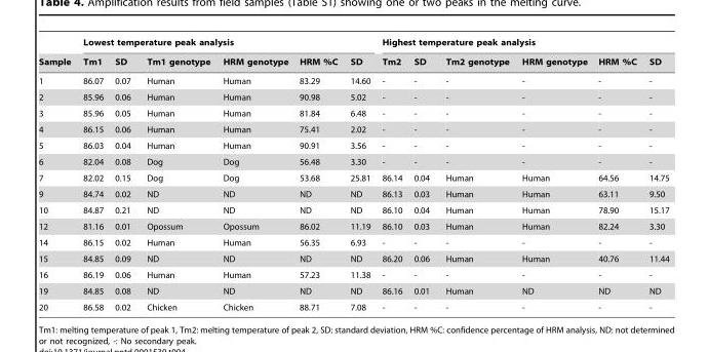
<table><thead><tr><td rowspan="2">Sample</td><td colspan="6">Lowest temperature peak analysis</td><td colspan="6">Highest temperature peak analysis</td></tr><tr><td>Tm1</td><td>SD</td><td>Tm1 genotype</td><td>HRM genotype</td><td>HRM %C</td><td>SD</td><td>Tm2</td><td>SD</td><td>Tm2 genotype</td><td>HRM genotype</td><td>HRM %C</td><td>SD</td></tr></thead><tbody><tr><td>1</td><td>86.07</td><td>0.07</td><td>Human</td><td>Human</td><td>83.29</td><td>14.60</td><td>-</td><td>-</td><td>-</td><td>-</td><td>-</td><td>-</td></tr><tr><td>2</td><td>85.96</td><td>0.06</td><td>Human</td><td>Human</td><td>90.98</td><td>5.02</td><td>-</td><td>-</td><td>-</td><td>-</td><td>-</td><td>-</td></tr><tr><td>3</td><td>85.96</td><td>0.05</td><td>Human</td><td>Human</td><td>81.84</td><td>6.48</td><td>-</td><td>-</td><td>-</td><td>-</td><td>-</td><td>-</td></tr><tr><td>4</td><td>86.15</td><td>0.06</td><td>Human</td><td>Human</td><td>75.41</td><td>2.02</td><td>-</td><td>-</td><td>-</td><td>-</td><td>-</td><td>-</td></tr><tr><td>5</td><td>86.03</td><td>0.04</td><td>Human</td><td>Human</td><td>90.91</td><td>3.56</td><td>-</td><td>-</td><td>-</td><td>-</td><td>-</td><td>-</td></tr><tr><td>6</td><td>82.04</td><td>0.08</td><td>Dog</td><td>Dog</td><td>56.48</td><td>3.30</td><td>-</td><td>-</td><td>-</td><td>-</td><td>-</td><td>-</td></tr><tr><td>7</td><td>82.02</td><td>0.15</td><td>Dog</td><td>Dog</td><td>53.68</td><td>25.81</td><td>86.14</td><td>0.04</td><td>Human</td><td>Human</td><td>64.56</td><td>14.75</td></tr><tr><td>9</td><td>84.74</td><td>0.02</td><td>ND</td><td>ND</td><td>ND</td><td>ND</td><td>86.13</td><td>0.03</td><td>Human</td><td>Human</td><td>63.11</td><td>9.50</td></tr><tr><td>10</td><td>84.87</td><td>0.21</td><td>ND</td><td>ND</td><td>ND</td><td>ND</td><td>86.10</td><td>0.04</td><td>Human</td><td>Human</td><td>78.90</td><td>15.17</td></tr><tr><td>12</td><td>81.16</td><td>0.01</td><td>Opossum</td><td>Opossum</td><td>86.02</td><td>11.19</td><td>86.10</td><td>0.03</td><td>Human</td><td>Human</td><td>82.24</td><td>3.30</td></tr><tr><td>14</td><td>86.15</td><td>0.02</td><td>Human</td><td>Human</td><td>56.35</td><td>6.93</td><td>-</td><td>-</td><td>-</td><td>-</td><td>-</td><td>-</td></tr><tr><td>15</td><td>84.85</td><td>0.09</td><td>ND</td><td>ND</td><td>ND</td><td>ND</td><td>86.20</td><td>0.06</td><td>Human</td><td>Human</td><td>40.76</td><td>11.44</td></tr><tr><td>16</td><td>86.19</td><td>0.06</td><td>Human</td><td>Human</td><td>57.23</td><td>11.38</td><td>-</td><td>-</td><td>-</td><td>-</td><td>-</td><td>-</td></tr><tr><td>19</td><td>84.85</td><td>0.08</td><td>ND</td><td>ND</td><td>ND</td><td>ND</td><td>86.16</td><td>0.01</td><td>Human</td><td>ND</td><td>ND</td><td>ND</td></tr><tr><td>20</td><td>86.58</td><td>0.02</td><td>Chicken</td><td>Chicken</td><td>88.71</td><td>7.08</td><td>-</td><td>-</td><td>-</td><td>-</td><td>-</td><td>-</td></tr></tbody></table>